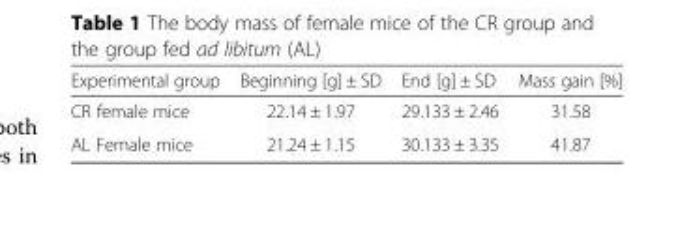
<table><thead><tr><td>Experimental group</td><td>Beginning [g] ± SD</td><td>End [g] ± SD</td><td>Mass gain [%]</td></tr></thead><tbody><tr><td>CR female mice</td><td>22.14 ± 1.97</td><td>29.133 ± 2.46</td><td>31.58</td></tr><tr><td>AL Female mice</td><td>21.24 ± 1.15</td><td>30.133 ± 3.35</td><td>41.87</td></tr></tbody></table>